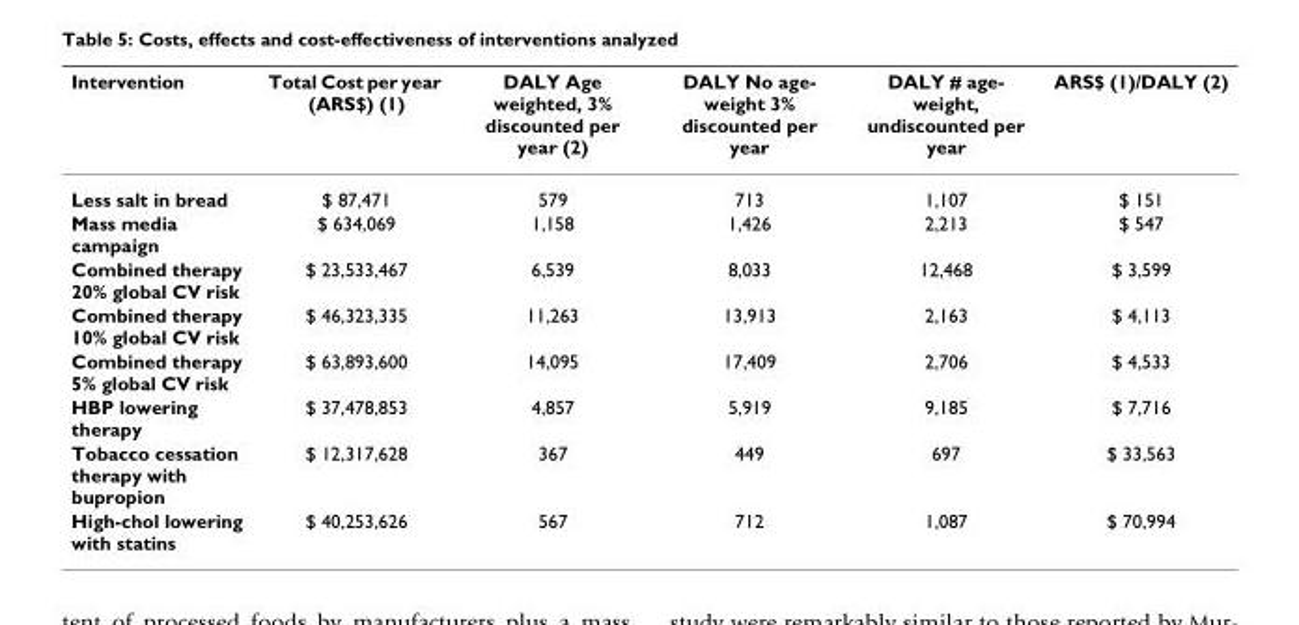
<table><thead><tr><td>Intervention</td><td>Total Cost per year (ARS$) (1)</td><td>DALY Age weighted, 3% discounted per year (2)</td><td>DALY No age- weight 3% discounted per year</td><td>DALY # age- weight, undiscounted per year</td><td>ARS$ (1)/DALY (2)</td></tr></thead><tbody><tr><td>Less salt in bread</td><td>$ 87,471</td><td>579</td><td>713</td><td>1,107</td><td>$ 151</td></tr><tr><td>Mass media campaign</td><td>$ 634,069</td><td>1,158</td><td>1,426</td><td>2,213</td><td>$ 547</td></tr><tr><td>Combined therapy 20% global CV risk</td><td>$ 23,533,467</td><td>6,539</td><td>8,033</td><td>12,468</td><td>$ 3,599</td></tr><tr><td>Combined therapy 10% global CV risk</td><td>$ 46,323,335</td><td>11,263</td><td>13,913</td><td>2,163</td><td>$ 4,113</td></tr><tr><td>Combined therapy 5% global CV risk</td><td>$ 63,893,600</td><td>14,095</td><td>17,409</td><td>2,706</td><td>$ 4,533</td></tr><tr><td>HBP lowering therapy</td><td>$ 37,478,853</td><td>4,857</td><td>5,919</td><td>9,185</td><td>$ 7,716</td></tr><tr><td>Tobacco cessation therapy with bupropion</td><td>$ 12,317,628</td><td>367</td><td>449</td><td>697</td><td>$ 33,563</td></tr><tr><td>High-chol lowering with statins</td><td>$ 40,253,626</td><td>567</td><td>712</td><td>1,087</td><td>$ 70,994</td></tr></tbody></table>